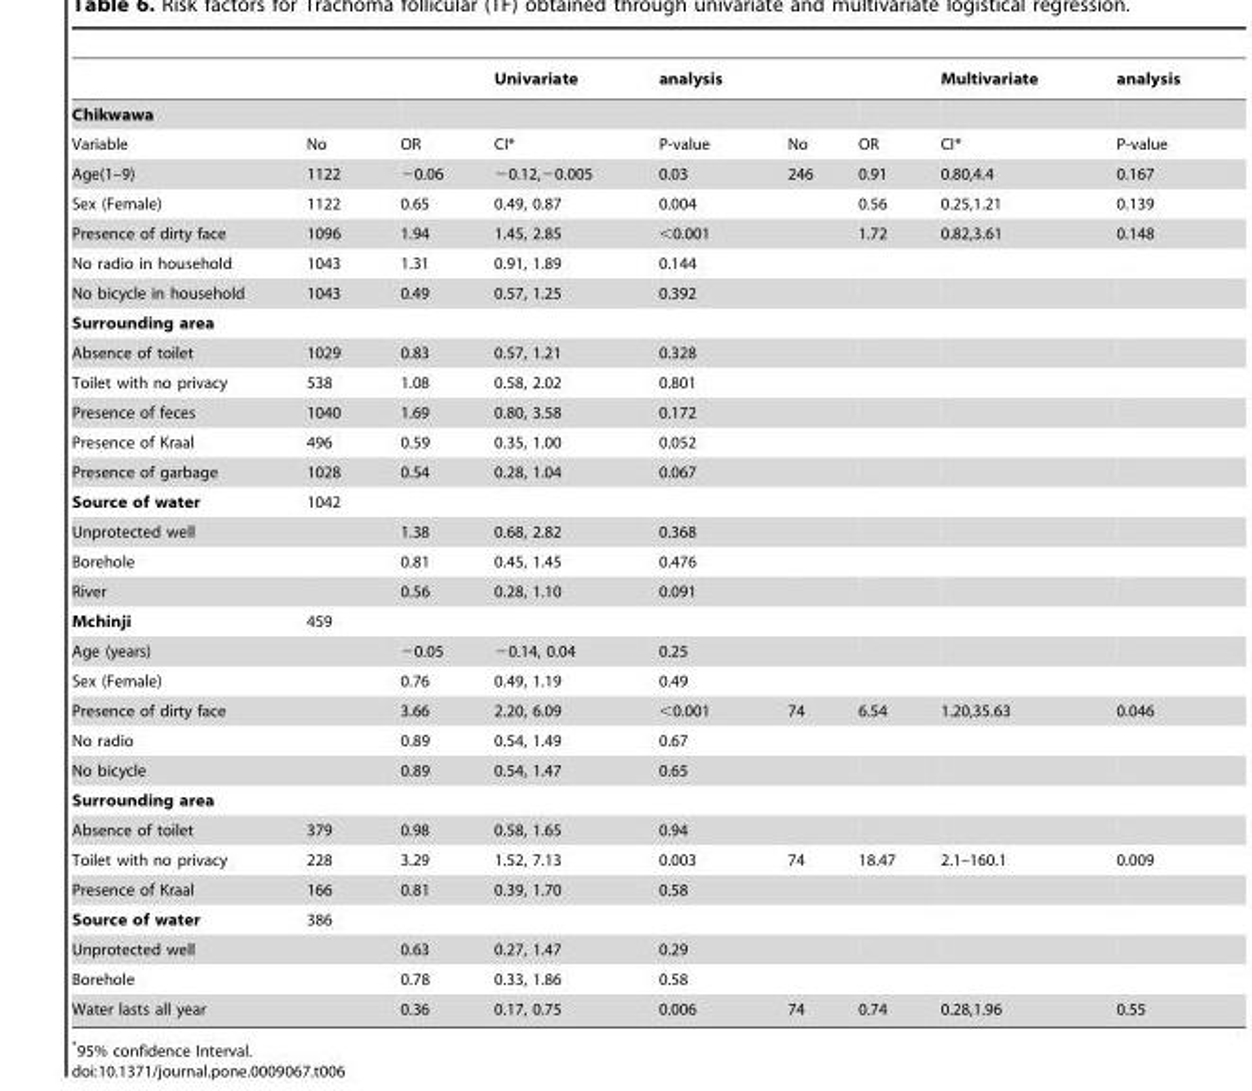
<table><thead><tr><td></td><td></td><td></td><td>Univariate</td><td>analysis</td><td></td><td></td><td>Multivariate</td><td>analysis</td></tr></thead><tbody><tr><td colspan="9">Chikwawa</td></tr><tr><td>Variable</td><td>No</td><td>OR</td><td>CI*</td><td>P-value</td><td>No</td><td>OR</td><td>CI*</td><td>P-value</td></tr><tr><td>Age(1–9)</td><td>1122</td><td>−0.06</td><td>−0.12,−0.005</td><td>0.03</td><td>246</td><td>0.91</td><td>0.80,4.4</td><td>0.167</td></tr><tr><td>Sex (Female)</td><td>1122</td><td>0.65</td><td>0.49, 0.87</td><td>0.004</td><td></td><td>0.56</td><td>0.25,1.21</td><td>0.139</td></tr><tr><td>Presence of dirty face</td><td>1096</td><td>1.94</td><td>1.45, 2.85</td><td>&lt;0.001</td><td></td><td>1.72</td><td>0.82,3.61</td><td>0.148</td></tr><tr><td>No radio in household</td><td>1043</td><td>1.31</td><td>0.91, 1.89</td><td>0.144</td><td></td><td></td><td></td><td></td></tr><tr><td>No bicycle in household</td><td>1043</td><td>0.49</td><td>0.57, 1.25</td><td>0.392</td><td></td><td></td><td></td><td></td></tr><tr><td colspan="9">Surrounding area</td></tr><tr><td>Absence of toilet</td><td>1029</td><td>0.83</td><td>0.57, 1.21</td><td>0.328</td><td></td><td></td><td></td><td></td></tr><tr><td>Toilet with no privacy</td><td>538</td><td>1.08</td><td>0.58, 2.02</td><td>0.801</td><td></td><td></td><td></td><td></td></tr><tr><td>Presence of feces</td><td>1040</td><td>1.69</td><td>0.80, 3.58</td><td>0.172</td><td></td><td></td><td></td><td></td></tr><tr><td>Presence of Kraal</td><td>496</td><td>0.59</td><td>0.35, 1.00</td><td>0.052</td><td></td><td></td><td></td><td></td></tr><tr><td>Presence of garbage</td><td>1028</td><td>0.54</td><td>0.28, 1.04</td><td>0.067</td><td></td><td></td><td></td><td></td></tr><tr><td>Source of water</td><td>1042</td><td></td><td></td><td></td><td></td><td></td><td></td><td></td></tr><tr><td>Unprotected well</td><td></td><td>1.38</td><td>0.68, 2.82</td><td>0.368</td><td></td><td></td><td></td><td></td></tr><tr><td>Borehole</td><td></td><td>0.81</td><td>0.45, 1.45</td><td>0.476</td><td></td><td></td><td></td><td></td></tr><tr><td>River</td><td></td><td>0.56</td><td>0.28, 1.10</td><td>0.091</td><td></td><td></td><td></td><td></td></tr><tr><td>Mchinji</td><td>459</td><td></td><td></td><td></td><td></td><td></td><td></td><td></td></tr><tr><td>Age (years)</td><td></td><td>−0.05</td><td>−0.14, 0.04</td><td>0.25</td><td></td><td></td><td></td><td></td></tr><tr><td>Sex (Female)</td><td></td><td>0.76</td><td>0.49, 1.19</td><td>0.49</td><td></td><td></td><td></td><td></td></tr><tr><td>Presence of dirty face</td><td></td><td>3.66</td><td>2.20, 6.09</td><td>&lt;0.001</td><td>74</td><td>6.54</td><td>1.20,35.63</td><td>0.046</td></tr><tr><td>No radio</td><td></td><td>0.89</td><td>0.54, 1.49</td><td>0.67</td><td></td><td></td><td></td><td></td></tr><tr><td>No bicycle</td><td></td><td>0.89</td><td>0.54, 1.47</td><td>0.65</td><td></td><td></td><td></td><td></td></tr><tr><td colspan="9">Surrounding area</td></tr><tr><td>Absence of toilet</td><td>379</td><td>0.98</td><td>0.58, 1.65</td><td>0.94</td><td></td><td></td><td></td><td></td></tr><tr><td>Toilet with no privacy</td><td>228</td><td>3.29</td><td>1.52, 7.13</td><td>0.003</td><td>74</td><td>18.47</td><td>2.1–160.1</td><td>0.009</td></tr><tr><td>Presence of Kraal</td><td>166</td><td>0.81</td><td>0.39, 1.70</td><td>0.58</td><td></td><td></td><td></td><td></td></tr><tr><td>Source of water</td><td>386</td><td></td><td></td><td></td><td></td><td></td><td></td><td></td></tr><tr><td>Unprotected well</td><td></td><td>0.63</td><td>0.27, 1.47</td><td>0.29</td><td></td><td></td><td></td><td></td></tr><tr><td>Borehole</td><td></td><td>0.78</td><td>0.33, 1.86</td><td>0.58</td><td></td><td></td><td></td><td></td></tr><tr><td>Water lasts all year</td><td></td><td>0.36</td><td>0.17, 0.75</td><td>0.006</td><td>74</td><td>0.74</td><td>0.28,1.96</td><td>0.55</td></tr></tbody></table>